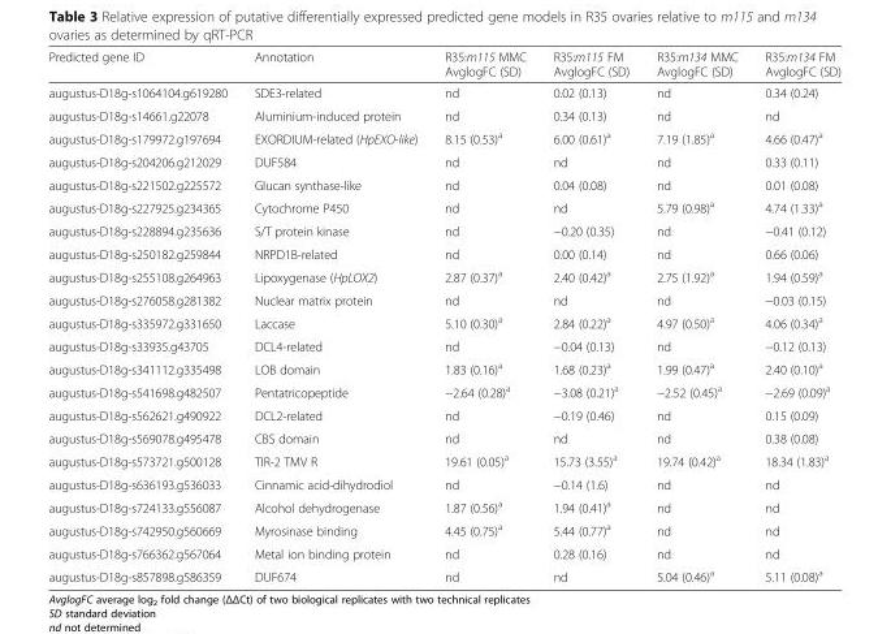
<table><thead><tr><td>Predicted gene ID</td><td>Annotation</td><td>R35:m115 MMC AvglogFC (SD)</td><td>R35:m115 FM AvglogFC (SD)</td><td>R35:m134 MMC AvglogFC (SD)</td><td>R35:m134 FM AvglogFC (SD)</td></tr></thead><tbody><tr><td>augustus-D18g-s1064104.g619280</td><td>SDE3-related</td><td>nd</td><td>0.02 (0.13)</td><td>nd</td><td>0.34 (0.24)</td></tr><tr><td>augustus-D18g-s14661.g22078</td><td>Aluminium-induced protein</td><td>nd</td><td>0.34 (0.13)</td><td>nd</td><td>nd</td></tr><tr><td>augustus-D18g-s179972.g197694</td><td>EXORDIUM-related (HpEXO-like)</td><td>8.15 (0.53)<sup>a</sup></td><td>6.00 (0.61)<sup>a</sup></td><td>7.19 (1.85)<sup>a</sup></td><td>4.66 (0.47)<sup>a</sup></td></tr><tr><td>augustus-D18g-s204206.g212029</td><td>DUF584</td><td>nd</td><td>nd</td><td>nd</td><td>0.33 (0.11)</td></tr><tr><td>augustus-D18g-s221502.g225572</td><td>Glucan synthase-like</td><td>nd</td><td>0.04 (0.08)</td><td>nd</td><td>0.01 (0.08)</td></tr><tr><td>augustus-D18g-s227925.g234365</td><td>Cytochrome P450</td><td>nd</td><td>nd</td><td>5.79 (0.98)<sup>a</sup></td><td>4.74 (1.33)<sup>a</sup></td></tr><tr><td>augustus-D18g-s228894.g235636</td><td>S/T protein kinase</td><td>nd</td><td>−0.20 (0.35)</td><td>nd</td><td>−0.41 (0.12)</td></tr><tr><td>augustus-D18g-s250182.g259844</td><td>NRPD1B-related</td><td>nd</td><td>0.00 (0.14)</td><td>nd</td><td>0.66 (0.06)</td></tr><tr><td>augustus-D18g-s255108.g264963</td><td>Lipoxygenase (HpLOX2)</td><td>2.87 (0.37)<sup>a</sup></td><td>2.40 (0.42)<sup>a</sup></td><td>2.75 (1.92)<sup>a</sup></td><td>1.94 (0.59)<sup>a</sup></td></tr><tr><td>augustus-D18g-s276058.g281382</td><td>Nuclear matrix protein</td><td>nd</td><td>nd</td><td>nd</td><td>−0.03 (0.15)</td></tr><tr><td>augustus-D18g-s335972.g331650</td><td>Laccase</td><td>5.10 (0.30)<sup>a</sup></td><td>2.84 (0.22)<sup>a</sup></td><td>4.97 (0.50)<sup>a</sup></td><td>4.06 (0.34)<sup>a</sup></td></tr><tr><td>augustus-D18g-s33935.g43705</td><td>DCL4-related</td><td>nd</td><td>−0.04 (0.13)</td><td>nd</td><td>−0.12 (0.13)</td></tr><tr><td>augustus-D18g-s341112.g335498</td><td>LOB domain</td><td>1.83 (0.16)<sup>a</sup></td><td>1.68 (0.23)<sup>a</sup></td><td>1.99 (0.47)<sup>a</sup></td><td>2.40 (0.10)<sup>a</sup></td></tr><tr><td>augustus-D18g-s541698.g482507</td><td>Pentatricopeptide</td><td>−2.64 (0.28)<sup>a</sup></td><td>−3.08 (0.21)<sup>a</sup></td><td>−2.52 (0.45)<sup>a</sup></td><td>−2.69 (0.09)<sup>a</sup></td></tr><tr><td>augustus-D18g-s562621.g490922</td><td>DCL2-related</td><td>nd</td><td>−0.19 (0.46)</td><td>nd</td><td>0.15 (0.09)</td></tr><tr><td>augustus-D18g-s569078.g495478</td><td>CBS domain</td><td>nd</td><td>nd</td><td>nd</td><td>0.38 (0.08)</td></tr><tr><td>augustus-D18g-s573721.g500128</td><td>TIR-2 TMV R</td><td>19.61 (0.05)<sup>a</sup></td><td>15.73 (3.55)<sup>a</sup></td><td>19.74 (0.42)<sup>a</sup></td><td>18.34 (1.83)<sup>a</sup></td></tr><tr><td>augustus-D18g-s636193.g536033</td><td>Cinnamic acid-dihydrodiol</td><td>nd</td><td>−0.14 (1.6)</td><td>nd</td><td>nd</td></tr><tr><td>augustus-D18g-s724133.g556087</td><td>Alcohol dehydrogenase</td><td>1.87 (0.56)<sup>a</sup></td><td>1.94 (0.41)<sup>a</sup></td><td>nd</td><td>nd</td></tr><tr><td>augustus-D18g-s742950.g560669</td><td>Myrosinase binding</td><td>4.45 (0.75)<sup>a</sup></td><td>5.44 (0.77)<sup>a</sup></td><td>nd</td><td>nd</td></tr><tr><td>augustus-D18g-s766362.g567064</td><td>Metal ion binding protein</td><td>nd</td><td>0.28 (0.16)</td><td>nd</td><td>nd</td></tr><tr><td>augustus-D18g-s857898.g586359</td><td>DUF674</td><td>nd</td><td>nd</td><td>5.04 (0.46)<sup>a</sup></td><td>5.11 (0.08)<sup>a</sup></td></tr></tbody></table>